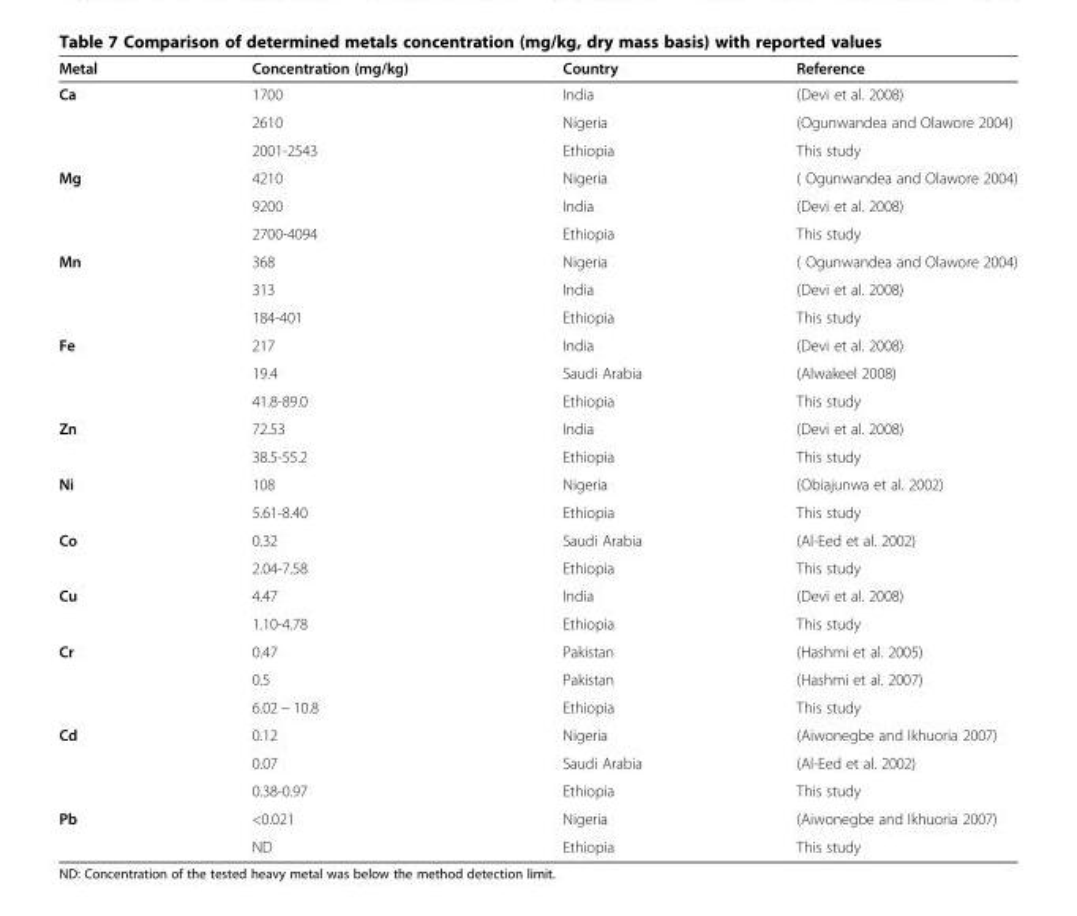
<table><thead><tr><td>Metal</td><td>Concentration (mg/kg)</td><td>Country</td><td>Reference</td></tr></thead><tbody><tr><td rowspan="3">Ca</td><td>1700</td><td>India</td><td>(Devi et al. 2008)</td></tr><tr><td>2610</td><td>Nigeria</td><td>(Ogunwandea and Olawore 2004)</td></tr><tr><td>2001-2543</td><td>Ethiopia</td><td>This study</td></tr><tr><td rowspan="3">Mg</td><td>4210</td><td>Nigeria</td><td>( Ogunwandea and Olawore 2004)</td></tr><tr><td>9200</td><td>India</td><td>(Devi et al. 2008)</td></tr><tr><td>2700-4094</td><td>Ethiopia</td><td>This study</td></tr><tr><td rowspan="3">Mn</td><td>368</td><td>Nigeria</td><td>( Ogunwandea and Olawore 2004)</td></tr><tr><td>313</td><td>India</td><td>(Devi et al. 2008)</td></tr><tr><td>184-401</td><td>Ethiopia</td><td>This study</td></tr><tr><td rowspan="3">Fe</td><td>217</td><td>India</td><td>(Devi et al. 2008)</td></tr><tr><td>19.4</td><td>Saudi Arabia</td><td>(Alwakeel 2008)</td></tr><tr><td>41.8-89.0</td><td>Ethiopia</td><td>This study</td></tr><tr><td rowspan="2">Zn</td><td>72.53</td><td>India</td><td>(Devi et al. 2008)</td></tr><tr><td>38.5-55.2</td><td>Ethiopia</td><td>This study</td></tr><tr><td rowspan="2">Ni</td><td>108</td><td>Nigeria</td><td>(Obiajunwa et al. 2002)</td></tr><tr><td>5.61-8.40</td><td>Ethiopia</td><td>This study</td></tr><tr><td rowspan="2">Co</td><td>0.32</td><td>Saudi Arabia</td><td>(Al-Eed et al. 2002)</td></tr><tr><td>2.04-7.58</td><td>Ethiopia</td><td>This study</td></tr><tr><td rowspan="2">Cu</td><td>4.47</td><td>India</td><td>(Devi et al. 2008)</td></tr><tr><td>1.10-4.78</td><td>Ethiopia</td><td>This study</td></tr><tr><td rowspan="3">Cr</td><td>0.47</td><td>Pakistan</td><td>(Hashmi et al. 2005)</td></tr><tr><td>0.5</td><td>Pakistan</td><td>(Hashmi et al. 2007)</td></tr><tr><td>6.02 − 10.8</td><td>Ethiopia</td><td>This study</td></tr><tr><td rowspan="3">Cd</td><td>0.12</td><td>Nigeria</td><td>(Aiwonegbe and Ikhuoria 2007)</td></tr><tr><td>0.07</td><td>Saudi Arabia</td><td>(Al-Eed et al. 2002)</td></tr><tr><td>0.38-0.97</td><td>Ethiopia</td><td>This study</td></tr><tr><td rowspan="2">Pb</td><td>&lt;0.021</td><td>Nigeria</td><td>(Aiwonegbe and Ikhuoria 2007)</td></tr><tr><td>ND</td><td>Ethiopia</td><td>This study</td></tr></tbody></table>